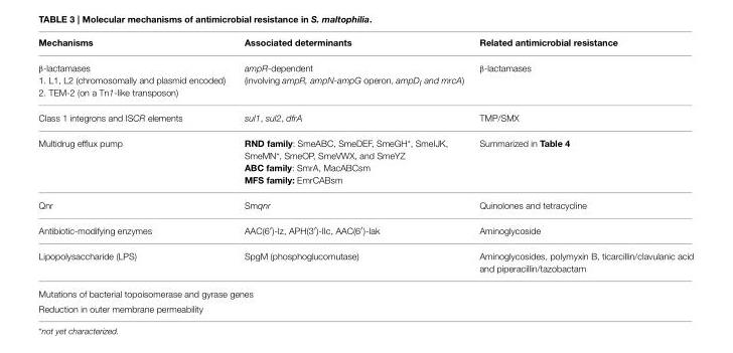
<table><thead><tr><td>Mechanisms</td><td>Associated determinants</td><td>Related antimicrobial resistance</td></tr></thead><tbody><tr><td>β-lactamases 1. L1, L2 (chromosomally and plasmid encoded) 2. TEM-2 (on a Tn1-like transposon)</td><td>ampR-dependent (involving ampR, ampN-ampG operon, ampDI and mrcA)</td><td>β-lactamases</td></tr><tr><td>Class 1 integrons and ISCR elements</td><td>sul1, sul2, dfrA</td><td>TMP/SMX</td></tr><tr><td>Multidrug efflux pump</td><td>RND family: SmeABC, SmeDEF, SmeGH*, SmeIJK, SmeMN*, SmeOP, SmeVWX, and SmeYZ ABC family: SmrA, MacABCsm MFS family: EmrCABsm</td><td>Summarized in Table 4</td></tr><tr><td>Qnr</td><td>Smqnr</td><td>Quinolones and tetracycline</td></tr><tr><td>Antibiotic-modifying enzymes</td><td>AAC(6′)-Iz, APH(3′)-IIc, AAC(6′)-Iak</td><td>Aminoglycoside</td></tr><tr><td>Lipopolysaccharide (LPS)</td><td>SpgM (phosphoglucomutase)</td><td>Aminoglycosides, polymyxin B, ticarcillin/clavulanic acid and piperacillin/tazobactam</td></tr><tr><td colspan="3">Mutations of bacterial topoisomerase and gyrase genes</td></tr><tr><td colspan="3">Reduction in outer membrane permeability</td></tr></tbody></table>